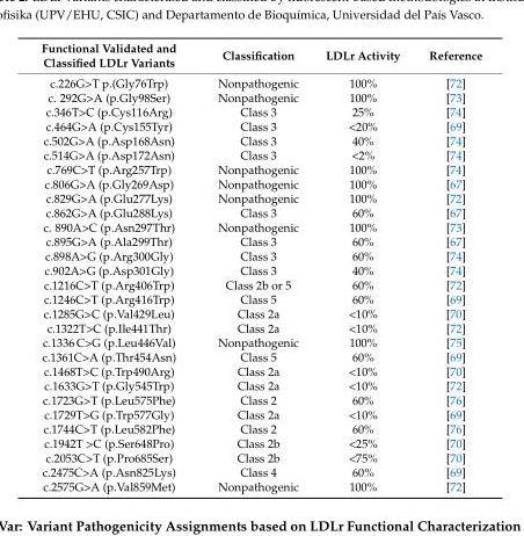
<table><thead><tr><td>Functional Validated and Classified LDLr Variants</td><td>Classification</td><td>LDLr Activity</td><td>Reference</td></tr></thead><tbody><tr><td>c.226G&gt;T p.(Gly76Trp)</td><td>Nonpathogenic</td><td>100%</td><td>[72]</td></tr><tr><td>c. 292G&gt;A (p.Gly98Ser)</td><td>Nonpathogenic</td><td>100%</td><td>[73]</td></tr><tr><td>c.346T&gt;C (p.Cys116Arg)</td><td>Class 3</td><td>25%</td><td>[74]</td></tr><tr><td>c.464G&gt;A (p.Cys155Tyr)</td><td>Class 3</td><td>&lt;20%</td><td>[69]</td></tr><tr><td>c.502G&gt;A (p.Asp168Asn)</td><td>Class 3</td><td>40%</td><td>[74]</td></tr><tr><td>c.514G&gt;A (p.Asp172Asn)</td><td>Class 3</td><td>&lt;2%</td><td>[74]</td></tr><tr><td>c.769C&gt;T (p.Arg257Trp)</td><td>Nonpathogenic</td><td>100%</td><td>[74]</td></tr><tr><td>c.806G&gt;A (p.Gly269Asp)</td><td>Nonpathogenic</td><td>100%</td><td>[67]</td></tr><tr><td>c.829G&gt;A (p.Glu277Lys)</td><td>Nonpathogenic</td><td>100%</td><td>[72]</td></tr><tr><td>c.862G&gt;A (p.Glu288Lys)</td><td>Class 3</td><td>60%</td><td>[67]</td></tr><tr><td>c. 890A&gt;C (p.Asn297Thr)</td><td>Nonpathogenic</td><td>100%</td><td>[73]</td></tr><tr><td>c.895G&gt;A (p.Ala299Thr)</td><td>Class 3</td><td>60%</td><td>[67]</td></tr><tr><td>c.898A&gt;G (p.Arg300Gly)</td><td>Class 3</td><td>60%</td><td>[74]</td></tr><tr><td>c.902A&gt;G (p.Asp301Gly)</td><td>Class 3</td><td>40%</td><td>[74]</td></tr><tr><td>c.1216C&gt;T (p.Arg406Trp)</td><td>Class 2b or 5</td><td>60%</td><td>[72]</td></tr><tr><td>c.1246C&gt;T (p.Arg416Trp)</td><td>Class 5</td><td>60%</td><td>[69]</td></tr><tr><td>c.1285G&gt;C (p.Val429Leu)</td><td>Class 2a</td><td>&lt;10%</td><td>[70]</td></tr><tr><td>c.1322T&gt;C (p.Ile441Thr)</td><td>Class 2a</td><td>&lt;10%</td><td>[72]</td></tr><tr><td>c.1336 C&gt;G (p.Leu446Val)</td><td>Nonpathogenic</td><td>100%</td><td>[75]</td></tr><tr><td>c.1361C&gt;A (p.Thr454Asn)</td><td>Class 5</td><td>60%</td><td>[69]</td></tr><tr><td>c.1468T&gt;C (p.Trp490Arg)</td><td>Class 2a</td><td>&lt;10%</td><td>[70]</td></tr><tr><td>c.1633G&gt;T (p.Gly545Trp)</td><td>Class 2a</td><td>&lt;10%</td><td>[72]</td></tr><tr><td>c.1723G&gt;T (p.Leu575Phe)</td><td>Class 2</td><td>60%</td><td>[76]</td></tr><tr><td>c.1729T&gt;G (p.Trp577Gly)</td><td>Class 2a</td><td>&lt;10%</td><td>[69]</td></tr><tr><td>c.1744C&gt;T (p.Leu582Phe)</td><td>Class 2</td><td>60%</td><td>[76]</td></tr><tr><td>c.1942T &gt;C (p.Ser648Pro)</td><td>Class 2b</td><td>&lt;25%</td><td>[70]</td></tr><tr><td>c.2053C&gt;T (p.Pro685Ser)</td><td>Class 2b</td><td>&lt;75%</td><td>[70]</td></tr><tr><td>c.2475C&gt;A (p.Asn825Lys)</td><td>Class 4</td><td>60%</td><td>[69]</td></tr><tr><td>c.2575G&gt;A (p.Val859Met)</td><td>Nonpathogenic</td><td>100%</td><td>[72]</td></tr></tbody></table>